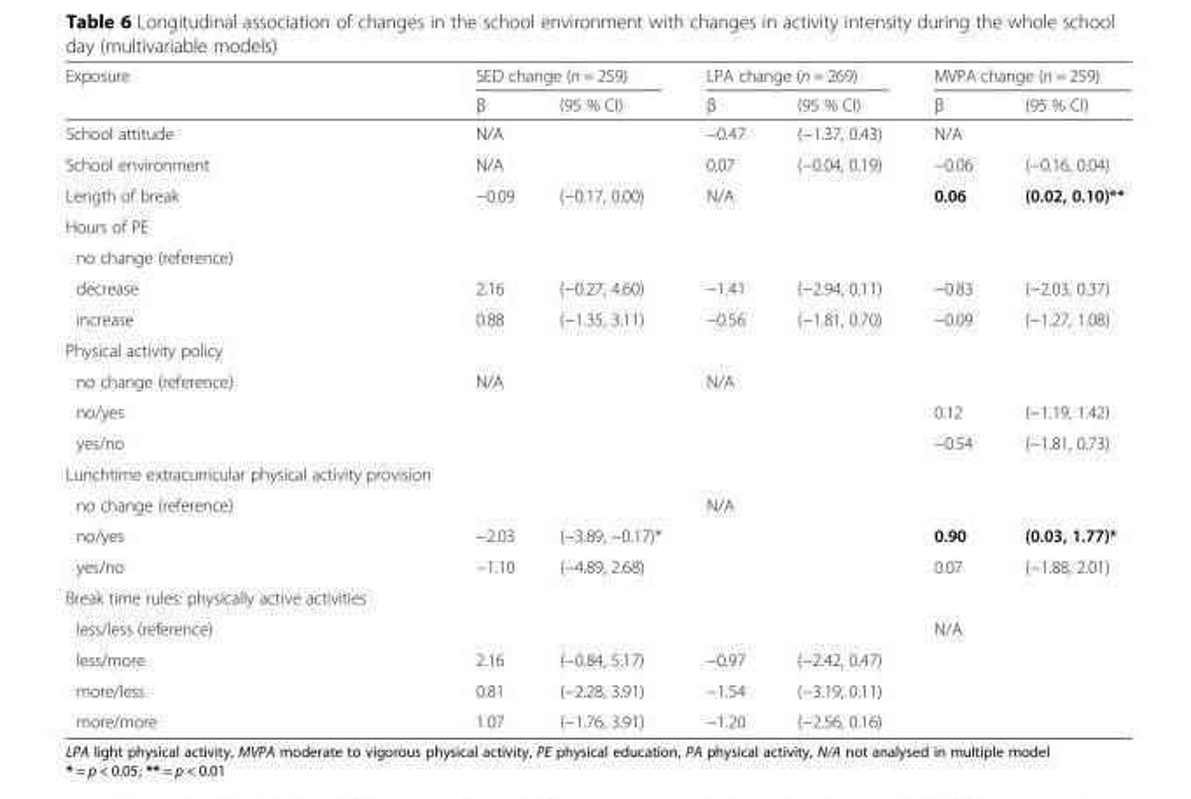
<table><thead><tr><td rowspan="2">Exposure</td><td colspan="2">SED change (n = 259)</td><td colspan="2">LPA change (n = 269)</td><td colspan="2">MVPA change (n = 259)</td></tr><tr><td>β</td><td>(95 % CI)</td><td>β</td><td>(95 % CI)</td><td>β</td><td>(95 % CI)</td></tr></thead><tbody><tr><td>School attitude</td><td>N/A</td><td></td><td>−0.47</td><td>(−1.37, 0.43)</td><td>N/A</td><td></td></tr><tr><td>School environment</td><td>N/A</td><td></td><td>0.07</td><td>(−0.04, 0.19)</td><td>−0.06</td><td>(−0.16, 0.04)</td></tr><tr><td>Length of break</td><td>−0.09</td><td>(−0.17, 0.00)</td><td>N/A</td><td></td><td>0.06</td><td>(0.02, 0.10)**</td></tr><tr><td colspan="7">Hours of PE</td></tr><tr><td colspan="7">no change (reference)</td></tr><tr><td>decrease</td><td>2.16</td><td>(−0.27, 4.60)</td><td>−1.41</td><td>(−2.94, 0.11)</td><td>−0.83</td><td>(−2.03, 0.37)</td></tr><tr><td>increase</td><td>0.88</td><td>(−1.35, 3.11)</td><td>−0.56</td><td>(−1.81, 0.70)</td><td>−0.09</td><td>(−1.27, 1.08)</td></tr><tr><td colspan="7">Physical activity policy</td></tr><tr><td>no change (reference)</td><td>N/A</td><td></td><td>N/A</td><td></td><td></td><td></td></tr><tr><td>no/yes</td><td></td><td></td><td></td><td></td><td>0.12</td><td>(−1.19, 1.42)</td></tr><tr><td>yes/no</td><td></td><td></td><td></td><td></td><td>−0.54</td><td>(−1.81, 0.73)</td></tr><tr><td colspan="7">Lunchtime extracurricular physical activity provision</td></tr><tr><td>no change (reference)</td><td></td><td></td><td>N/A</td><td></td><td></td><td></td></tr><tr><td>no/yes</td><td>−2.03</td><td>(−3.89, −0.17)*</td><td></td><td></td><td>0.90</td><td>(0.03, 1.77)*</td></tr><tr><td>yes/no</td><td>−1.10</td><td>(−4.89, 2.68)</td><td></td><td></td><td>0.07</td><td>(−1.88, 2.01)</td></tr><tr><td colspan="7">Break time rules: physically active activities</td></tr><tr><td>less/less (reference)</td><td></td><td></td><td></td><td></td><td>N/A</td><td></td></tr><tr><td>less/more</td><td>2.16</td><td>(−0.84, 5.17)</td><td>−0.97</td><td>(−2.42, 0.47)</td><td></td><td></td></tr><tr><td>more/less</td><td>0.81</td><td>(−2.28, 3.91)</td><td>−1.54</td><td>(−3.19, 0.11)</td><td></td><td></td></tr><tr><td>more/more</td><td>1.07</td><td>(−1.76, 3.91)</td><td>−1.20</td><td>(−2.56, 0.16)</td><td></td><td></td></tr></tbody></table>